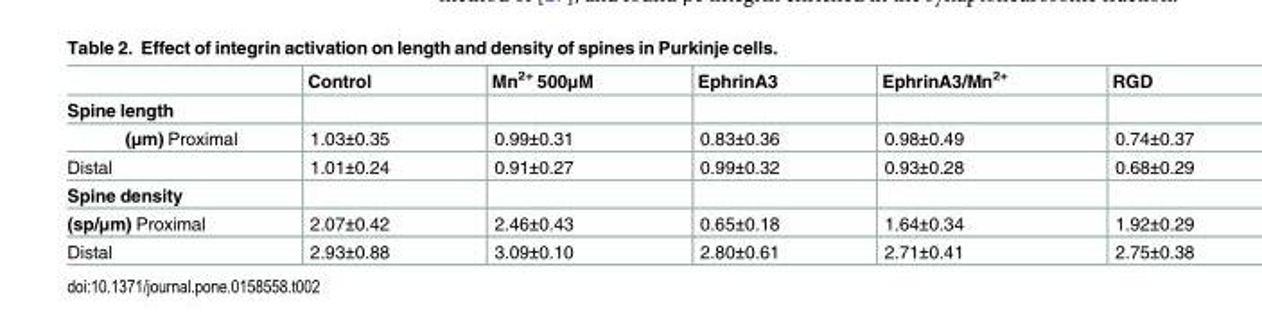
<table><thead><tr><td></td><td>Control</td><td>Mn<sup>2+</sup> 500μM</td><td>EphrinA3</td><td>EphrinA3/Mn<sup>2+</sup></td><td>RGD</td></tr></thead><tbody><tr><td colspan="6">Spine length</td></tr><tr><td>(μm) Proximal</td><td>1.03±0.35</td><td>0.99±0.31</td><td>0.83±0.36</td><td>0.98±0.49</td><td>0.74±0.37</td></tr><tr><td>Distal</td><td>1.01±0.24</td><td>0.91±0.27</td><td>0.99±0.32</td><td>0.93±0.28</td><td>0.68±0.29</td></tr><tr><td colspan="6">Spine density</td></tr><tr><td>(sp/μm) Proximal</td><td>2.07±0.42</td><td>2.46±0.43</td><td>0.65±0.18</td><td>1.64±0.34</td><td>1.92±0.29</td></tr><tr><td>Distal</td><td>2.93±0.88</td><td>3.09±0.10</td><td>2.80±0.61</td><td>2.71±0.41</td><td>2.75±0.38</td></tr></tbody></table>